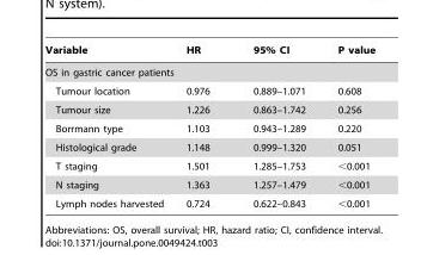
<table><thead><tr><td>Variable</td><td>HR</td><td>95% CI</td><td>P value</td></tr></thead><tbody><tr><td colspan="4">OS in gastric cancer patients</td></tr><tr><td>Tumour location</td><td>0.976</td><td>0.889–1.071</td><td>0.608</td></tr><tr><td>Tumour size</td><td>1.226</td><td>0.863–1.742</td><td>0.256</td></tr><tr><td>Borrmann type</td><td>1.103</td><td>0.943–1.289</td><td>0.220</td></tr><tr><td>Histological grade</td><td>1.148</td><td>0.999–1.320</td><td>0.051</td></tr><tr><td>T staging</td><td>1.501</td><td>1.285–1.753</td><td>&lt;0.001</td></tr><tr><td>N staging</td><td>1.363</td><td>1.257–1.479</td><td>&lt;0.001</td></tr><tr><td>Lymph nodes harvested</td><td>0.724</td><td>0.622–0.843</td><td>&lt;0.001</td></tr></tbody></table>